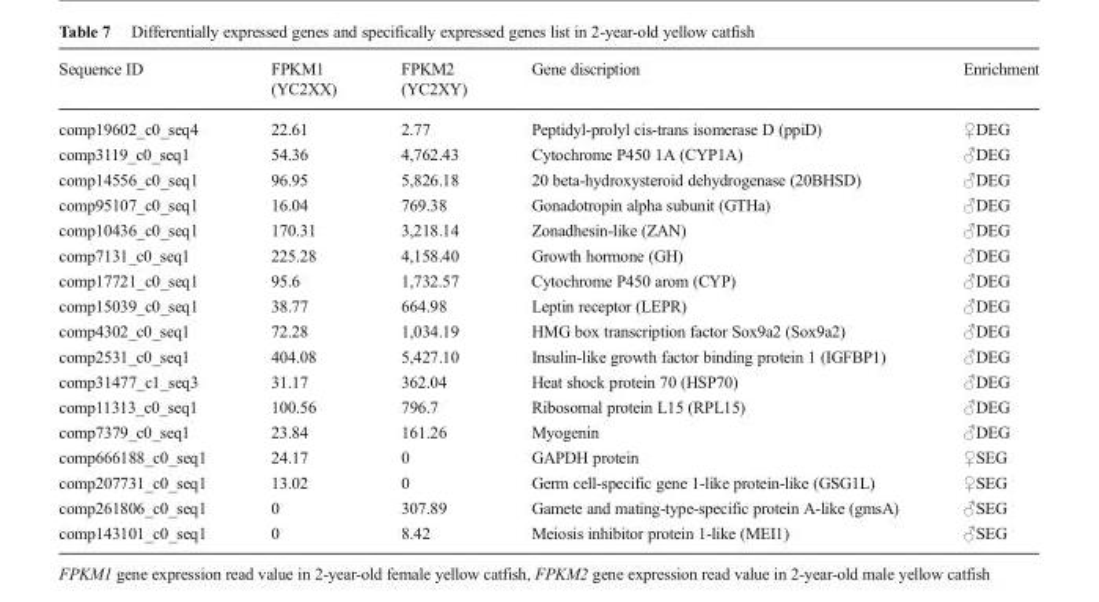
<table><thead><tr><td rowspan="2">Sequence ID</td><td rowspan="2">FPKM1 (YC2XX)</td><td rowspan="2">FPKM2 (YC2XY)</td><td rowspan="2">Gene discription</td><td rowspan="2">Enrichment</td></tr><tr></tr></thead><tbody><tr><td>comp19602_c0_seq4</td><td>22.61</td><td>2.77</td><td>Peptidyl-prolyl cis-trans isomerase D (ppiD)</td><td>♀DEG</td></tr><tr><td>comp3119_c0_seq1</td><td>54.36</td><td>4,762.43</td><td>Cytochrome P450 1A (CYP1A)</td><td>♂DEG</td></tr><tr><td>comp14556_c0_seq1</td><td>96.95</td><td>5,826.18</td><td>20 beta-hydroxysteroid dehydrogenase (20BHSD)</td><td>♂DEG</td></tr><tr><td>comp95107_c0_seq1</td><td>16.04</td><td>769.38</td><td>Gonadotropin alpha subunit (GTHa)</td><td>♂DEG</td></tr><tr><td>comp10436_c0_seq1</td><td>170.31</td><td>3,218.14</td><td>Zonadhesin-like (ZAN)</td><td>♂DEG</td></tr><tr><td>comp7131_c0_seq1</td><td>225.28</td><td>4,158.40</td><td>Growth hormone (GH)</td><td>♂DEG</td></tr><tr><td>comp17721_c0_seq1</td><td>95.6</td><td>1,732.57</td><td>Cytochrome P450 arom (CYP)</td><td>♂DEG</td></tr><tr><td>comp15039_c0_seq1</td><td>38.77</td><td>664.98</td><td>Leptin receptor (LEPR)</td><td>♂DEG</td></tr><tr><td>comp4302_c0_seq1</td><td>72.28</td><td>1,034.19</td><td>HMG box transcription factor Sox9a2 (Sox9a2)</td><td>♂DEG</td></tr><tr><td>comp2531_c0_seq1</td><td>404.08</td><td>5,427.10</td><td>Insulin-like growth factor binding protein 1 (IGFBP1)</td><td>♂DEG</td></tr><tr><td>comp31477_c1_seq3</td><td>31.17</td><td>362.04</td><td>Heat shock protein 70 (HSP70)</td><td>♂DEG</td></tr><tr><td>comp11313_c0_seq1</td><td>100.56</td><td>796.7</td><td>Ribosomal protein L15 (RPL15)</td><td>♂DEG</td></tr><tr><td>comp7379_c0_seq1</td><td>23.84</td><td>161.26</td><td>Myogenin</td><td>♂DEG</td></tr><tr><td>comp666188_c0_seq1</td><td>24.17</td><td>0</td><td>GAPDH protein</td><td>♀SEG</td></tr><tr><td>comp207731_c0_seq1</td><td>13.02</td><td>0</td><td>Germ cell-specific gene 1-like protein-like (GSG1L)</td><td>♀SEG</td></tr><tr><td>comp261806_c0_seq1</td><td>0</td><td>307.89</td><td>Gamete and mating-type-specific protein A-like (gmsA)</td><td>♂SEG</td></tr><tr><td>comp143101_c0_seq1</td><td>0</td><td>8.42</td><td>Meiosis inhibitor protein 1-like (MEI1)</td><td>♂SEG</td></tr></tbody></table>